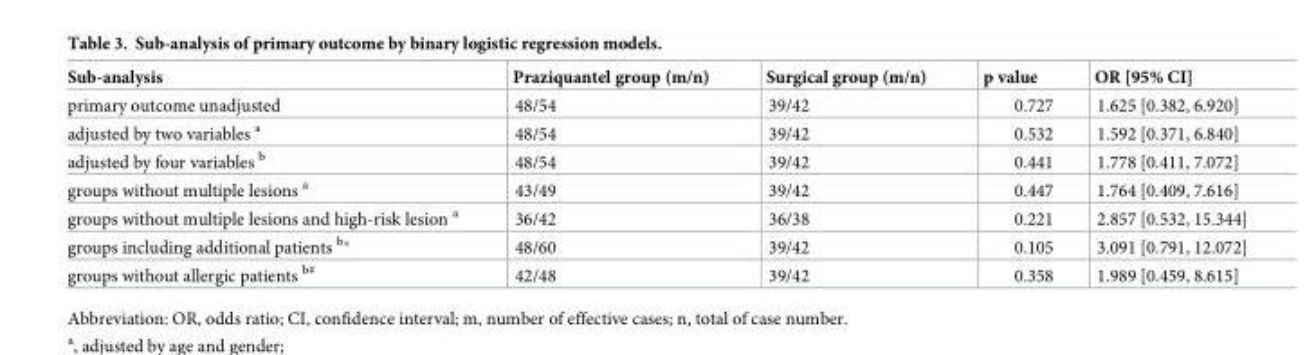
<table><thead><tr><td>Sub-analysis</td><td>Praziquantel group (m/n)</td><td>Surgical group (m/n)</td><td>p value</td><td>OR [95% CI]</td></tr></thead><tbody><tr><td>primary outcome unadjusted</td><td>48/54</td><td>39/42</td><td>0.727</td><td>1.625 [0.382, 6.920]</td></tr><tr><td>adjusted by two variables <sup>a</sup></td><td>48/54</td><td>39/42</td><td>0.532</td><td>1.592 [0.371, 6.840]</td></tr><tr><td>adjusted by four variables <sup>b</sup></td><td>48/54</td><td>39/42</td><td>0.441</td><td>1.778 [0.411, 7.072]</td></tr><tr><td>groups without multiple lesions <sup>a</sup></td><td>43/49</td><td>39/42</td><td>0.447</td><td>1.764 [0.409, 7.616]</td></tr><tr><td>groups without multiple lesions and high-risk lesion <sup>a</sup></td><td>36/42</td><td>36/38</td><td>0.221</td><td>2.857 [0.532, 15.344]</td></tr><tr><td>groups including additional patients <sup>b</sup>*</td><td>48/60</td><td>39/42</td><td>0.105</td><td>3.091 [0.791, 12.072]</td></tr><tr><td>groups without allergic patients <sup>b#</sup></td><td>42/48</td><td>39/42</td><td>0.358</td><td>1.989 [0.459, 8.615]</td></tr></tbody></table>